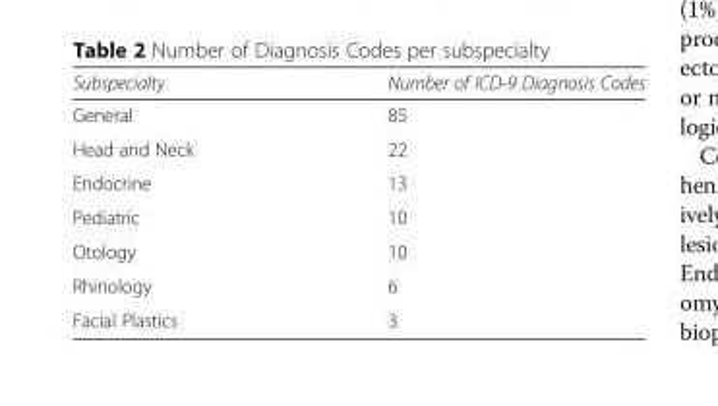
<table><thead><tr><td>Subspecialty</td><td>Number of ICD-9 Diagnosis Codes</td></tr></thead><tbody><tr><td>General</td><td>85</td></tr><tr><td>Head and Neck</td><td>22</td></tr><tr><td>Endocrine</td><td>13</td></tr><tr><td>Pediatric</td><td>10</td></tr><tr><td>Otology</td><td>10</td></tr><tr><td>Rhinology</td><td>6</td></tr><tr><td>Facial Plastics</td><td>3</td></tr></tbody></table>